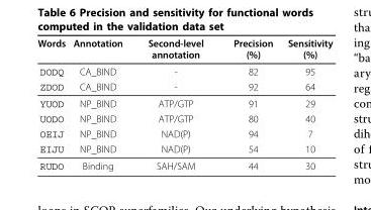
<table><thead><tr><td>Words</td><td>Annotation</td><td>Second-level annotation</td><td>Precision (%)</td><td>Sensitivity (%)</td></tr></thead><tbody><tr><td>DODQ</td><td>CA_BIND</td><td>-</td><td>82</td><td>95</td></tr><tr><td>ZDOD</td><td>CA_BIND</td><td>-</td><td>92</td><td>64</td></tr><tr><td>YUOD</td><td>NP_BIND</td><td>ATP/GTP</td><td>91</td><td>29</td></tr><tr><td>UODO</td><td>NP_BIND</td><td>ATP/GTP</td><td>80</td><td>40</td></tr><tr><td>OEIJ</td><td>NP_BIND</td><td>NAD(P)</td><td>94</td><td>7</td></tr><tr><td>EIJU</td><td>NP_BIND</td><td>NAD(P)</td><td>54</td><td>10</td></tr><tr><td>RUDO</td><td>Binding</td><td>SAH/SAM</td><td>44</td><td>30</td></tr></tbody></table>